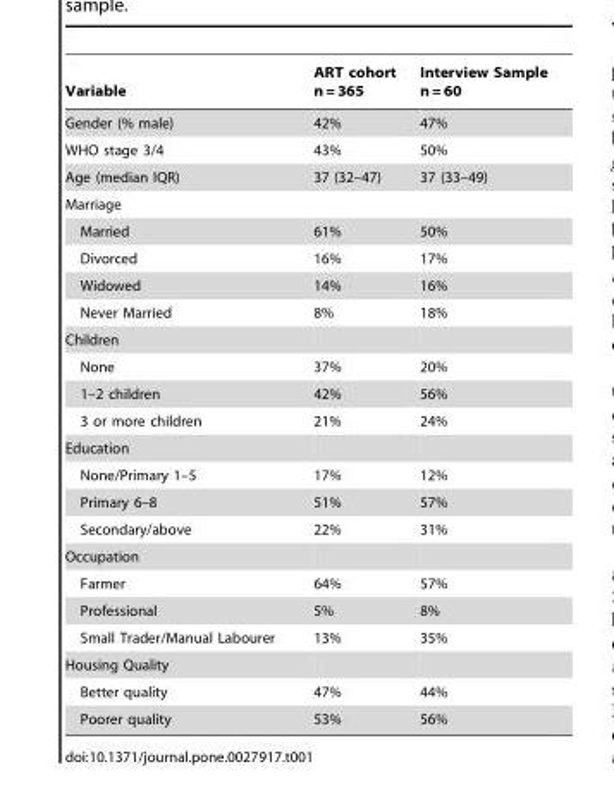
<table><thead><tr><td>Variable</td><td>ART cohort n = 365</td><td>Interview Sample n = 60</td></tr></thead><tbody><tr><td>Gender (% male)</td><td>42%</td><td>47%</td></tr><tr><td>WHO stage 3/4</td><td>43%</td><td>50%</td></tr><tr><td>Age (median IQR)</td><td>37 (32–47)</td><td>37 (33–49)</td></tr><tr><td colspan="3">Marriage</td></tr><tr><td>Married</td><td>61%</td><td>50%</td></tr><tr><td>Divorced</td><td>16%</td><td>17%</td></tr><tr><td>Widowed</td><td>14%</td><td>16%</td></tr><tr><td>Never Married</td><td>8%</td><td>18%</td></tr><tr><td colspan="3">Children</td></tr><tr><td>None</td><td>37%</td><td>20%</td></tr><tr><td>1–2 children</td><td>42%</td><td>56%</td></tr><tr><td>3 or more children</td><td>21%</td><td>24%</td></tr><tr><td colspan="3">Education</td></tr><tr><td>None/Primary 1–5</td><td>17%</td><td>12%</td></tr><tr><td>Primary 6–8</td><td>51%</td><td>57%</td></tr><tr><td>Secondary/above</td><td>22%</td><td>31%</td></tr><tr><td colspan="3">Occupation</td></tr><tr><td>Farmer</td><td>64%</td><td>57%</td></tr><tr><td>Professional</td><td>5%</td><td>8%</td></tr><tr><td>Small Trader/Manual Labourer</td><td>13%</td><td>35%</td></tr><tr><td colspan="3">Housing Quality</td></tr><tr><td>Better quality</td><td>47%</td><td>44%</td></tr><tr><td>Poorer quality</td><td>53%</td><td>56%</td></tr></tbody></table>